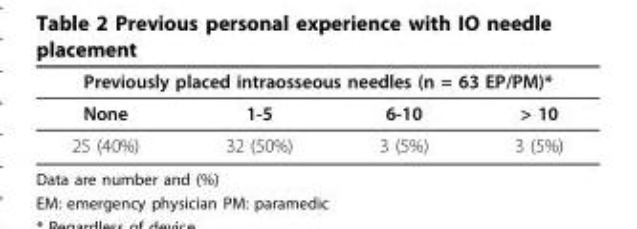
<table><thead><tr><td colspan="4">Previously placed intraosseous needles (n = 63 EP/PM)*</td></tr><tr><td>None</td><td>1-5</td><td>6-10</td><td>&gt; 10</td></tr></thead><tbody><tr><td>25 (40%)</td><td>32 (50%)</td><td>3 (5%)</td><td>3 (5%)</td></tr></tbody></table>